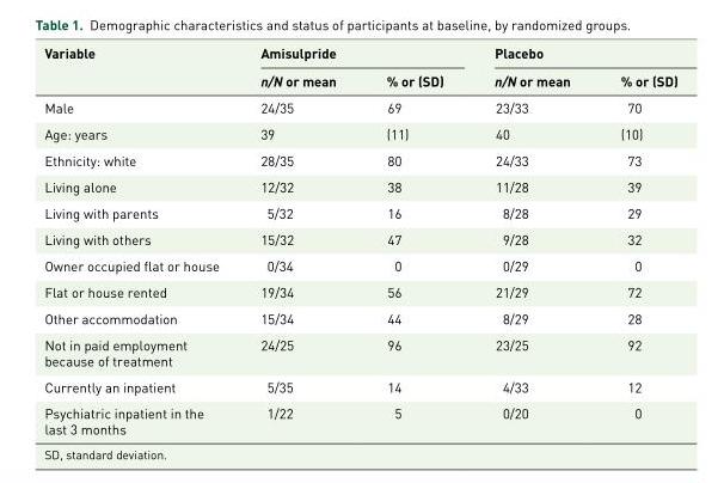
<table><thead><tr><td rowspan="2">Variable</td><td colspan="2">Amisulpride</td><td colspan="2">Placebo</td></tr><tr><td>n/N or mean</td><td>% or (SD)</td><td>n/N or mean</td><td>% or (SD)</td></tr></thead><tbody><tr><td>Male</td><td>24/35</td><td>69</td><td>23/33</td><td>70</td></tr><tr><td>Age: years</td><td>39</td><td>(11)</td><td>40</td><td>(10)</td></tr><tr><td>Ethnicity: white</td><td>28/35</td><td>80</td><td>24/33</td><td>73</td></tr><tr><td>Living alone</td><td>12/32</td><td>38</td><td>11/28</td><td>39</td></tr><tr><td>Living with parents</td><td>5/32</td><td>16</td><td>8/28</td><td>29</td></tr><tr><td>Living with others</td><td>15/32</td><td>47</td><td>9/28</td><td>32</td></tr><tr><td>Owner occupied flat or house</td><td>0/34</td><td>0</td><td>0/29</td><td>0</td></tr><tr><td>Flat or house rented</td><td>19/34</td><td>56</td><td>21/29</td><td>72</td></tr><tr><td>Other accommodation</td><td>15/34</td><td>44</td><td>8/29</td><td>28</td></tr><tr><td>Not in paid employment because of treatment</td><td>24/25</td><td>96</td><td>23/25</td><td>92</td></tr><tr><td>Currently an inpatient</td><td>5/35</td><td>14</td><td>4/33</td><td>12</td></tr><tr><td>Psychiatric inpatient in the last 3 months</td><td>1/22</td><td>5</td><td>0/20</td><td>0</td></tr></tbody></table>